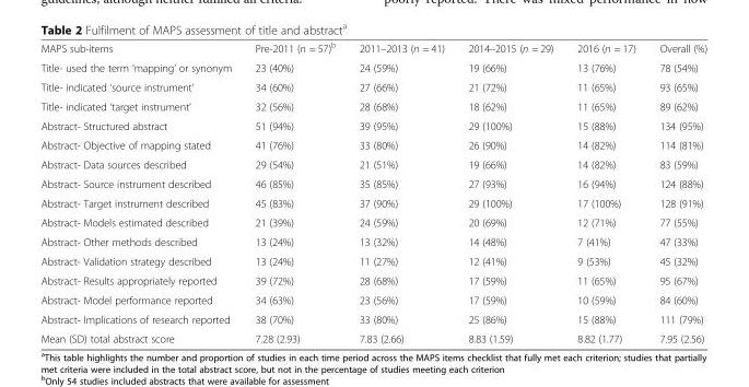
<table><tbody><tr><td>MAPS sub-items</td><td>Pre-2011 (n = 57)<sup>b</sup></td><td>2011–2013 (n = 41)</td><td>2014–2015 (n = 29)</td><td>2016 (n = 17)</td><td>Overall (%)</td></tr><tr><td>Title- used the term ‘mapping’ or synonym</td><td>23 (40%)</td><td>24 (59%)</td><td>19 (66%)</td><td>13 (76%)</td><td>78 (54%)</td></tr><tr><td>Title- indicated ‘source instrument’</td><td>34 (60%)</td><td>27 (66%)</td><td>21 (72%)</td><td>11 (65%)</td><td>93 (65%)</td></tr><tr><td>Title- indicated ‘target instrument’</td><td>32 (56%)</td><td>28 (68%)</td><td>18 (62%)</td><td>11 (65%)</td><td>89 (62%)</td></tr><tr><td>Abstract- Structured abstract</td><td>51 (94%)</td><td>39 (95%)</td><td>29 (100%)</td><td>15 (88%)</td><td>134 (95%)</td></tr><tr><td>Abstract- Objective of mapping stated</td><td>41 (76%)</td><td>33 (80%)</td><td>26 (90%)</td><td>14 (82%)</td><td>114 (81%)</td></tr><tr><td>Abstract- Data sources described</td><td>29 (54%)</td><td>21 (51%)</td><td>19 (66%)</td><td>14 (82%)</td><td>83 (59%)</td></tr><tr><td>Abstract- Source instrument described</td><td>46 (85%)</td><td>35 (85%)</td><td>27 (93%)</td><td>16 (94%)</td><td>124 (88%)</td></tr><tr><td>Abstract- Target instrument described</td><td>45 (83%)</td><td>37 (90%)</td><td>29 (100%)</td><td>17 (100%)</td><td>128 (91%)</td></tr><tr><td>Abstract- Models estimated described</td><td>21 (39%)</td><td>24 (59%)</td><td>20 (69%)</td><td>12 (71%)</td><td>77 (55%)</td></tr><tr><td>Abstract- Other methods described</td><td>13 (24%)</td><td>13 (32%)</td><td>14 (48%)</td><td>7 (41%)</td><td>47 (33%)</td></tr><tr><td>Abstract- Validation strategy described</td><td>13 (24%)</td><td>11 (27%)</td><td>12 (41%)</td><td>9 (53%)</td><td>45 (32%)</td></tr><tr><td>Abstract- Results appropriately reported</td><td>39 (72%)</td><td>28 (68%)</td><td>17 (59%)</td><td>11 (65%)</td><td>95 (67%)</td></tr><tr><td>Abstract- Model performance reported</td><td>34 (63%)</td><td>23 (56%)</td><td>17 (59%)</td><td>10 (59%)</td><td>84 (60%)</td></tr><tr><td>Abstract- Implications of research reported</td><td>38 (70%)</td><td>33 (80%)</td><td>25 (86%)</td><td>15 (88%)</td><td>111 (79%)</td></tr><tr><td>Mean (SD) total abstract score</td><td>7.28 (2.93)</td><td>7.83 (2.66)</td><td>8.83 (1.59)</td><td>8.82 (1.77)</td><td>7.95 (2.56)</td></tr></tbody></table>